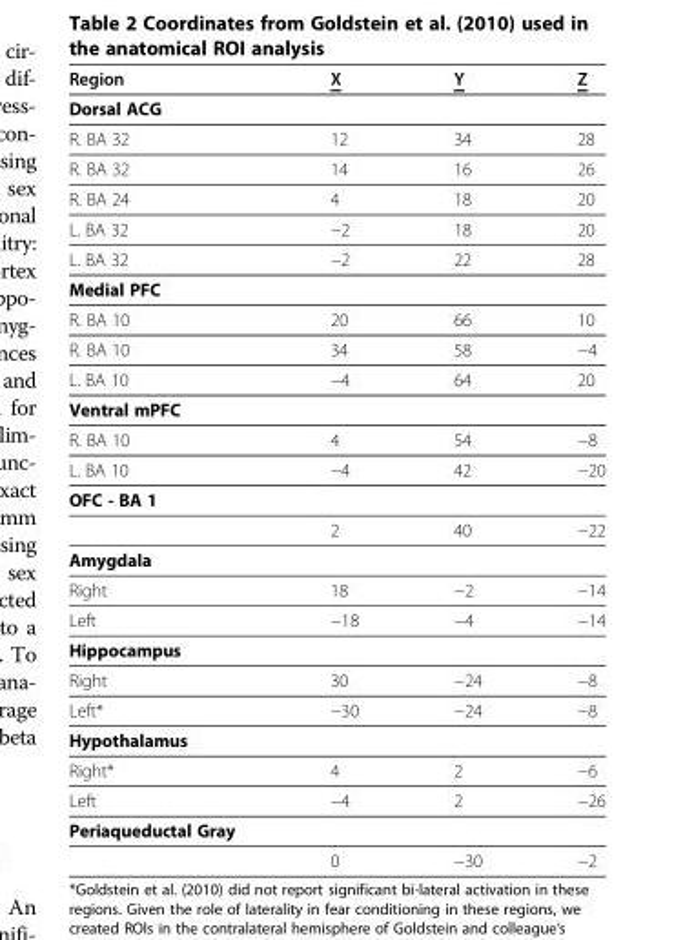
<table><thead><tr><td>Region</td><td>X</td><td>Y</td><td>Z</td></tr></thead><tbody><tr><td colspan="4">Dorsal ACG</td></tr><tr><td>R. BA 32</td><td>12</td><td>34</td><td>28</td></tr><tr><td>R. BA 32</td><td>14</td><td>16</td><td>26</td></tr><tr><td>R. BA 24</td><td>4</td><td>18</td><td>20</td></tr><tr><td>L. BA 32</td><td>−2</td><td>18</td><td>20</td></tr><tr><td>L. BA 32</td><td>−2</td><td>22</td><td>28</td></tr><tr><td colspan="4">Medial PFC</td></tr><tr><td>R. BA 10</td><td>20</td><td>66</td><td>10</td></tr><tr><td>R. BA 10</td><td>34</td><td>58</td><td>−4</td></tr><tr><td>L. BA 10</td><td>−4</td><td>64</td><td>20</td></tr><tr><td colspan="4">Ventral mPFC</td></tr><tr><td>R. BA 10</td><td>4</td><td>54</td><td>−8</td></tr><tr><td>L. BA 10</td><td>−4</td><td>42</td><td>−20</td></tr><tr><td colspan="4">OFC - BA 1</td></tr><tr><td></td><td>2</td><td>40</td><td>−22</td></tr><tr><td colspan="4">Amygdala</td></tr><tr><td>Right</td><td>18</td><td>−2</td><td>−14</td></tr><tr><td>Left</td><td>−18</td><td>−4</td><td>−14</td></tr><tr><td colspan="4">Hippocampus</td></tr><tr><td>Right</td><td>30</td><td>−24</td><td>−8</td></tr><tr><td>Left*</td><td>−30</td><td>−24</td><td>−8</td></tr><tr><td colspan="4">Hypothalamus</td></tr><tr><td>Right*</td><td>4</td><td>2</td><td>−6</td></tr><tr><td>Left</td><td>−4</td><td>2</td><td>−26</td></tr><tr><td colspan="4">Periaqueductal Gray</td></tr><tr><td></td><td>0</td><td>−30</td><td>−2</td></tr></tbody></table>